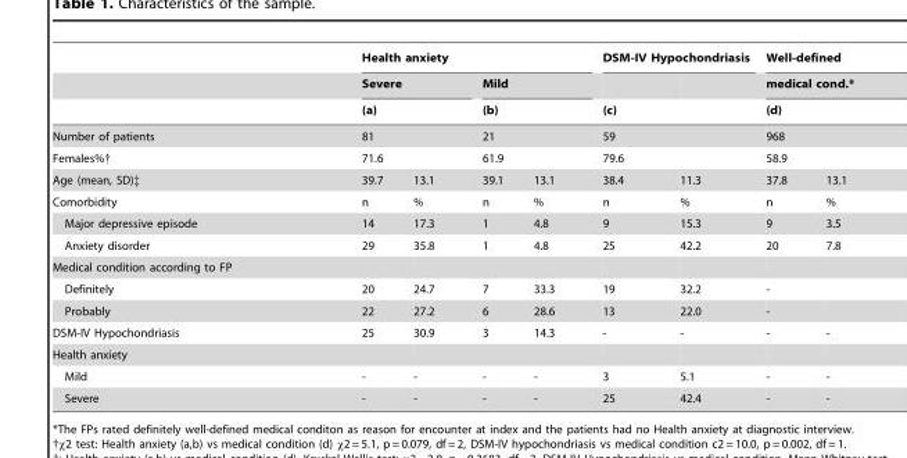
<table><thead><tr><td rowspan="6">Number of patients Females%† Age (mean, SD)‡</td><td colspan="4">Health anxiety</td><td colspan="2">DSM-IV Hypochondriasis</td><td rowspan="5" colspan="2">Well-defined medical cond.* (d) 968 58.9</td></tr><tr><td rowspan="4" colspan="2">Severe (a) 81 71.6</td><td rowspan="4" colspan="2">Mild (b) 21 61.9</td><td></td><td></td></tr><tr><td rowspan="3" colspan="2">(c) 59 79.6</td></tr><tr></tr><tr></tr><tr><td>39.7</td><td>13.1</td><td>39.1</td><td>13.1</td><td>38.4</td><td>11.3</td><td>37.8</td><td>13.1</td></tr></thead><tbody><tr><td>Comorbidity</td><td>n</td><td>%</td><td>n</td><td>%</td><td>n</td><td>%</td><td>n</td><td>%</td></tr><tr><td>Major depressive episode</td><td>14</td><td>17.3</td><td>1</td><td>4.8</td><td>9</td><td>15.3</td><td>9</td><td>3.5</td></tr><tr><td>Anxiety disorder</td><td>29</td><td>35.8</td><td>1</td><td>4.8</td><td>25</td><td>42.2</td><td>20</td><td>7.8</td></tr><tr><td colspan="9">Medical condition according to FP</td></tr><tr><td>Definitely</td><td>20</td><td>24.7</td><td>7</td><td>33.3</td><td>19</td><td>32.2</td><td>-</td><td></td></tr><tr><td>Probably</td><td>22</td><td>27.2</td><td>6</td><td>28.6</td><td>13</td><td>22.0</td><td>-</td><td></td></tr><tr><td>DSM-IV Hypochondriasis</td><td>25</td><td>30.9</td><td>3</td><td>14.3</td><td>-</td><td>-</td><td>-</td><td>-</td></tr><tr><td colspan="9">Health anxiety</td></tr><tr><td>Mild</td><td>-</td><td>-</td><td>-</td><td>-</td><td>3</td><td>5.1</td><td>-</td><td>-</td></tr><tr><td>Severe</td><td>-</td><td>-</td><td>-</td><td>-</td><td>25</td><td>42.4</td><td>-</td><td>-</td></tr></tbody></table>